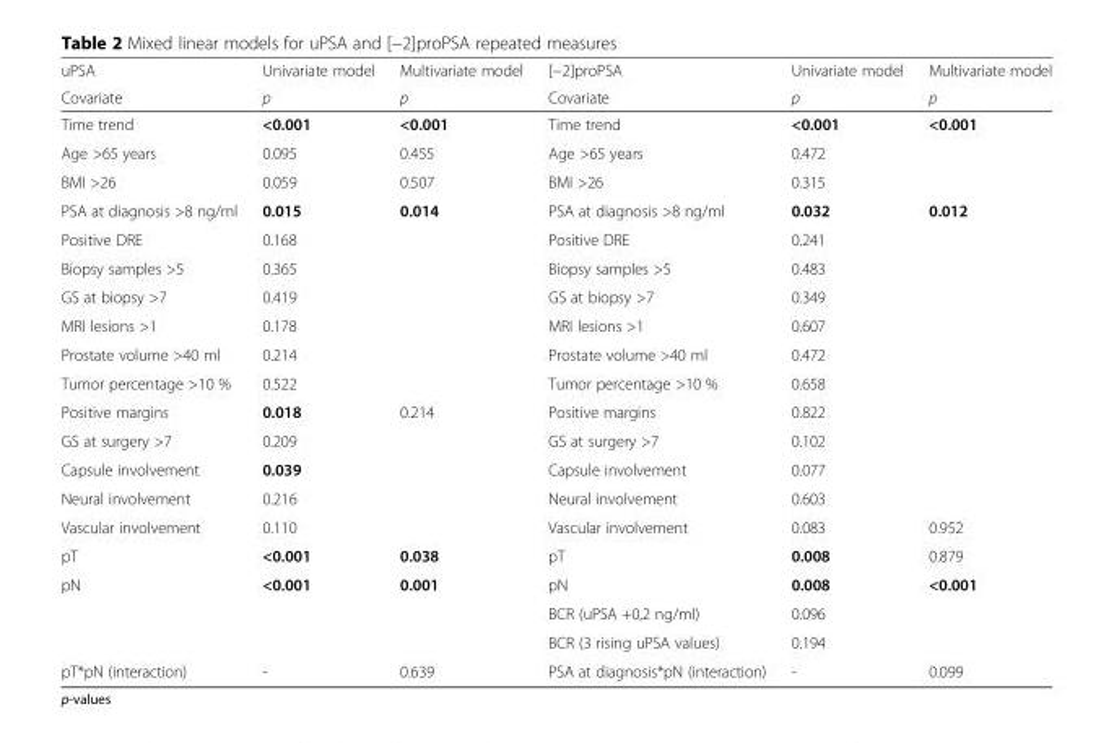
<table><thead><tr><td rowspan="2">uPSA Covariate</td><td rowspan="2">Univariate model p</td><td rowspan="2">Multivariate model p</td><td rowspan="2">[−2]proPSA Covariate</td><td rowspan="2">Univariate model p</td><td rowspan="2">Multivariate model p</td></tr><tr></tr></thead><tbody><tr><td>Time trend</td><td>&lt;0.001</td><td>&lt;0.001</td><td>Time trend</td><td>&lt;0.001</td><td>&lt;0.001</td></tr><tr><td>Age &gt;65 years</td><td>0.095</td><td>0.455</td><td>Age &gt;65 years</td><td>0.472</td><td></td></tr><tr><td>BMI &gt;26</td><td>0.059</td><td>0.507</td><td>BMI &gt;26</td><td>0.315</td><td></td></tr><tr><td>PSA at diagnosis &gt;8 ng/ml</td><td>0.015</td><td>0.014</td><td>PSA at diagnosis &gt;8 ng/ml</td><td>0.032</td><td>0.012</td></tr><tr><td>Positive DRE</td><td>0.168</td><td></td><td>Positive DRE</td><td>0.241</td><td></td></tr><tr><td>Biopsy samples &gt;5</td><td>0.365</td><td></td><td>Biopsy samples &gt;5</td><td>0.483</td><td></td></tr><tr><td>GS at biopsy &gt;7</td><td>0.419</td><td></td><td>GS at biopsy &gt;7</td><td>0.349</td><td></td></tr><tr><td>MRI lesions &gt;1</td><td>0.178</td><td></td><td>MRI lesions &gt;1</td><td>0.607</td><td></td></tr><tr><td>Prostate volume &gt;40 ml</td><td>0.214</td><td></td><td>Prostate volume &gt;40 ml</td><td>0.472</td><td></td></tr><tr><td>Tumor percentage &gt;10 %</td><td>0.522</td><td></td><td>Tumor percentage &gt;10 %</td><td>0.658</td><td></td></tr><tr><td>Positive margins</td><td>0.018</td><td>0.214</td><td>Positive margins</td><td>0.822</td><td></td></tr><tr><td>GS at surgery &gt;7</td><td>0.209</td><td></td><td>GS at surgery &gt;7</td><td>0.102</td><td></td></tr><tr><td>Capsule involvement</td><td>0.039</td><td></td><td>Capsule involvement</td><td>0.077</td><td></td></tr><tr><td>Neural involvement</td><td>0.216</td><td></td><td>Neural involvement</td><td>0.603</td><td></td></tr><tr><td>Vascular involvement</td><td>0.110</td><td></td><td>Vascular involvement</td><td>0.083</td><td>0.952</td></tr><tr><td>pT</td><td>&lt;0.001</td><td>0.038</td><td>pT</td><td>0.008</td><td>0.879</td></tr><tr><td rowspan="3">pN</td><td>&lt;0.001</td><td>0.001</td><td>pN</td><td>0.008</td><td>&lt;0.001</td></tr><tr><td></td><td></td><td>BCR (uPSA +0,2 ng/ml)</td><td>0.096</td><td></td></tr><tr><td></td><td></td><td>BCR (3 rising uPSA values)</td><td>0.194</td><td></td></tr><tr><td>pT*pN (interaction)</td><td>-</td><td>0.639</td><td>PSA at diagnosis*pN (interaction)</td><td>-</td><td>0.099</td></tr></tbody></table>